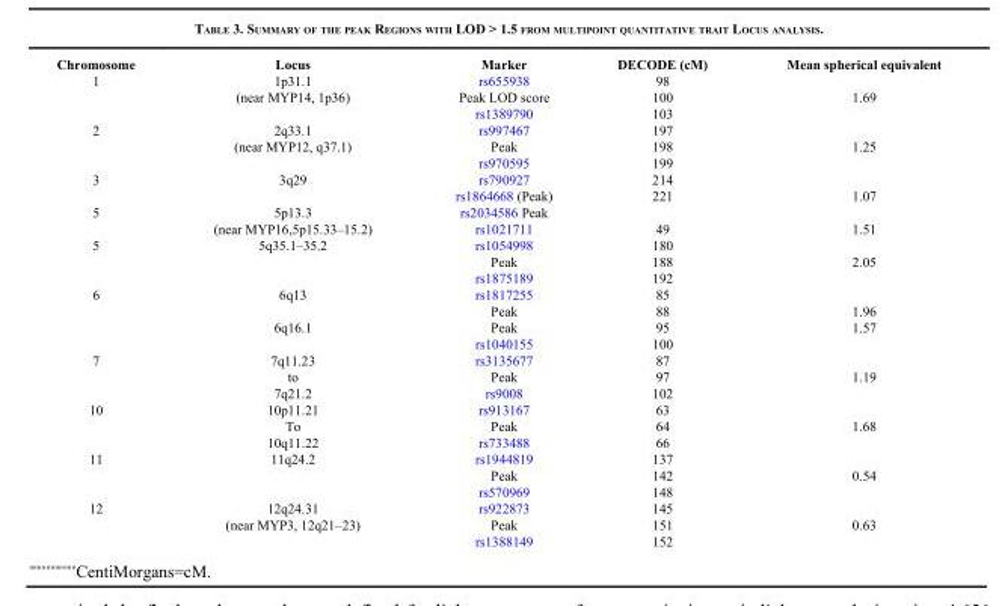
<table><thead><tr><td>Chromosome</td><td>Locus</td><td>Marker</td><td>DECODE (cM)</td><td>Mean spherical equivalent</td></tr></thead><tbody><tr><td rowspan="3">1</td><td>1p31.1</td><td>rs655938</td><td>98</td><td></td></tr><tr><td>(near MYP14, 1p36)</td><td>Peak LOD score</td><td>100</td><td>1.69</td></tr><tr><td></td><td>rs1389790</td><td>103</td><td></td></tr><tr><td rowspan="3">2</td><td>2q33.1</td><td>rs997467</td><td>197</td><td></td></tr><tr><td>(near MYP12, q37.1)</td><td>Peak</td><td>198</td><td>1.25</td></tr><tr><td></td><td>rs970595</td><td>199</td><td></td></tr><tr><td rowspan="2">3</td><td>3q29</td><td>rs790927</td><td>214</td><td></td></tr><tr><td></td><td>rs1864668 (Peak)</td><td>221</td><td>1.07</td></tr><tr><td rowspan="2">5</td><td>5p13.3</td><td>rs2034586 Peak</td><td></td><td></td></tr><tr><td>(near MYP16,5p15.33–15.2)</td><td>rs1021711</td><td>49</td><td>1.51</td></tr><tr><td rowspan="3">5</td><td>5q35.1–35.2</td><td>rs1054998</td><td>180</td><td></td></tr><tr><td></td><td>Peak</td><td>188</td><td>2.05</td></tr><tr><td></td><td>rs1875189</td><td>192</td><td></td></tr><tr><td rowspan="4">6</td><td>6q13</td><td>rs1817255</td><td>85</td><td></td></tr><tr><td></td><td>Peak</td><td>88</td><td>1.96</td></tr><tr><td>6q16.1</td><td>Peak</td><td>95</td><td>1.57</td></tr><tr><td></td><td>rs1040155</td><td>100</td><td></td></tr><tr><td rowspan="3">7</td><td>7q11.23</td><td>rs3135677</td><td>87</td><td></td></tr><tr><td>to</td><td>Peak</td><td>97</td><td>1.19</td></tr><tr><td>7q21.2</td><td>rs9008</td><td>102</td><td></td></tr><tr><td rowspan="3">10</td><td>10p11.21</td><td>rs913167</td><td>63</td><td></td></tr><tr><td>To</td><td>Peak</td><td>64</td><td>1.68</td></tr><tr><td>10q11.22</td><td>rs733488</td><td>66</td><td></td></tr><tr><td rowspan="3">11</td><td>11q24.2</td><td>rs1944819</td><td>137</td><td></td></tr><tr><td></td><td>Peak</td><td>142</td><td>0.54</td></tr><tr><td></td><td>rs570969</td><td>148</td><td></td></tr><tr><td rowspan="3">12</td><td>12q24.31</td><td>rs922873</td><td>145</td><td></td></tr><tr><td>(near MYP3, 12q21–23)</td><td>Peak</td><td>151</td><td>0.63</td></tr><tr><td></td><td>rs1388149</td><td>152</td><td></td></tr></tbody></table>